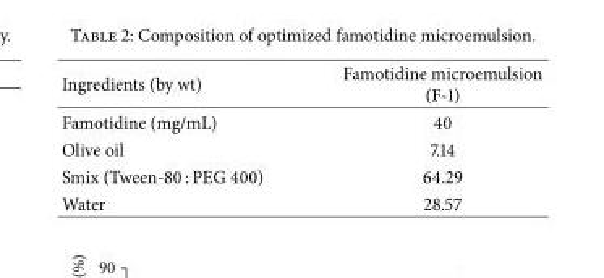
<table><thead><tr><td>Ingredients (by wt)</td><td>Famotidine microemulsion (F-1)</td></tr></thead><tbody><tr><td>Famotidine (mg/mL)</td><td>40</td></tr><tr><td>Olive oil</td><td>7.14</td></tr><tr><td>Smix (Tween-80 : PEG 400)</td><td>64.29</td></tr><tr><td>Water</td><td>28.57</td></tr></tbody></table>